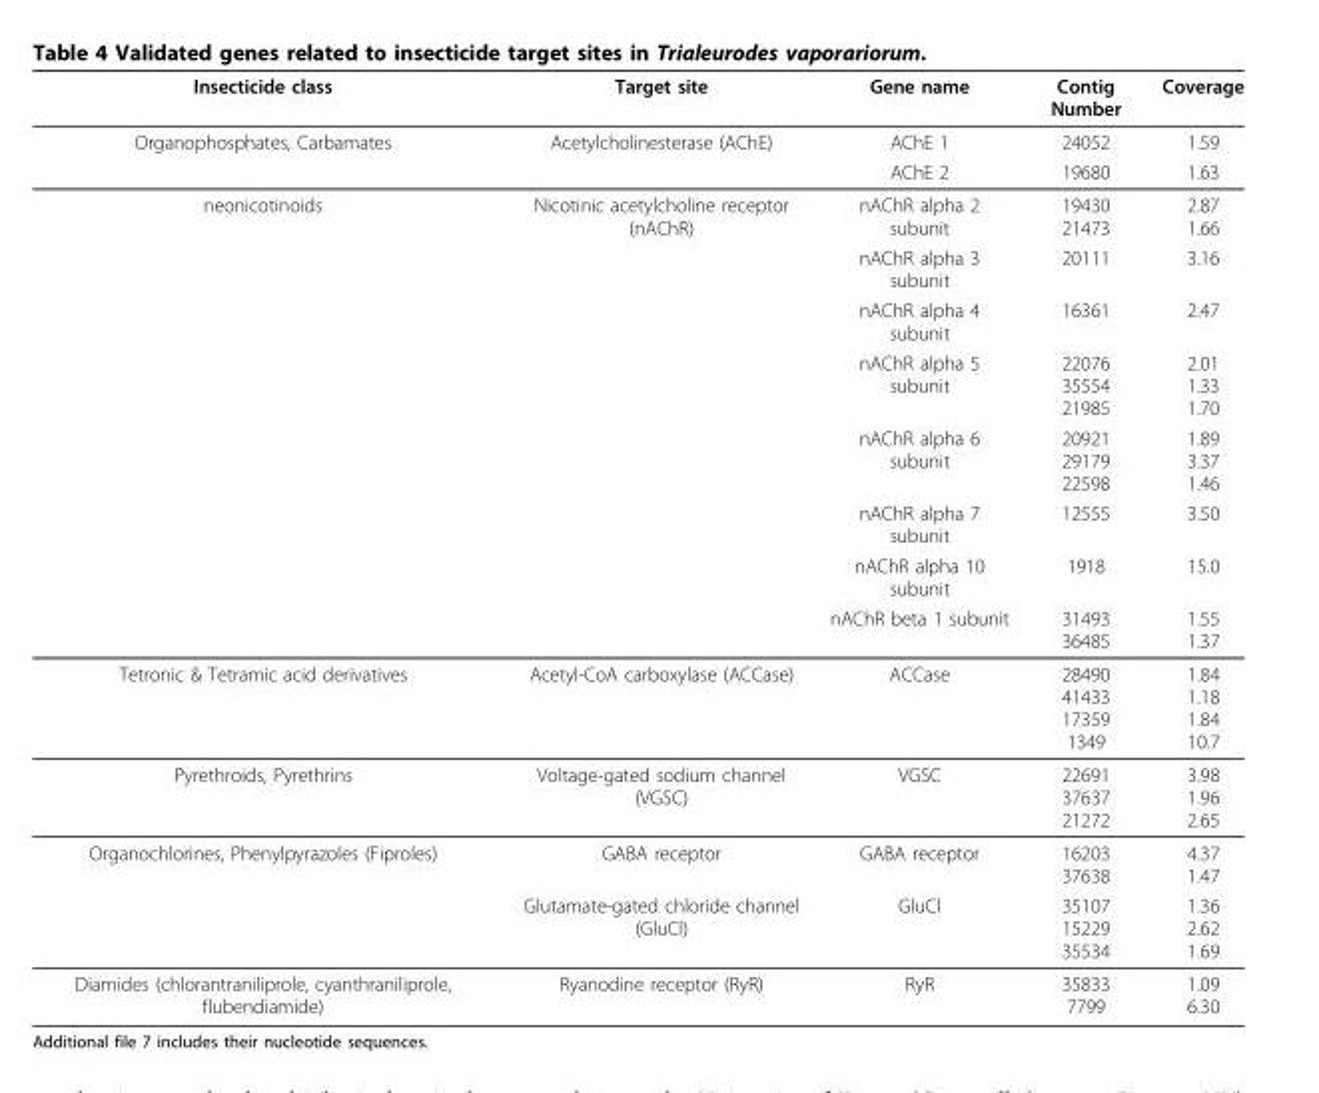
<table><thead><tr><td>Insecticide class</td><td>Target site</td><td>Gene name</td><td>Contig Number</td><td>Coverage</td></tr></thead><tbody><tr><td rowspan="2">Organophosphates, Carbamates</td><td>Acetylcholinesterase (AChE)</td><td>AChE 1</td><td>24052</td><td>1.59</td></tr><tr><td></td><td>AChE 2</td><td>19680</td><td>1.63</td></tr><tr><td rowspan="8">neonicotinoids</td><td>Nicotinic acetylcholine receptor (nAChR)</td><td>nAChR alpha 2 subunit</td><td>19430 21473</td><td>2.87 1.66</td></tr><tr><td></td><td>nAChR alpha 3 subunit</td><td>20111</td><td>3.16</td></tr><tr><td></td><td>nAChR alpha 4 subunit</td><td>16361</td><td>2.47</td></tr><tr><td></td><td>nAChR alpha 5 subunit</td><td>22076 35554 21985</td><td>2.01 1.33 1.70</td></tr><tr><td></td><td>nAChR alpha 6 subunit</td><td>20921 29179 22598</td><td>1.89 3.37 1.46</td></tr><tr><td></td><td>nAChR alpha 7 subunit</td><td>12555</td><td>3.50</td></tr><tr><td></td><td>nAChR alpha 10 subunit</td><td>1918</td><td>15.0</td></tr><tr><td></td><td>nAChR beta 1 subunit</td><td>31493 36485</td><td>1.55 1.37</td></tr><tr><td>Tetronic &amp; Tetramic acid derivatives</td><td>Acetyl-CoA carboxylase (ACCase)</td><td>ACCase</td><td>28490 41433 17359 1349</td><td>1.84 1.18 1.84 10.7</td></tr><tr><td>Pyrethroids, Pyrethrins</td><td>Voltage-gated sodium channel (VGSC)</td><td>VGSC</td><td>22691 37637 21272</td><td>3.98 1.96 2.65</td></tr><tr><td rowspan="2">Organochlorines, Phenylpyrazoles (Fiproles)</td><td>GABA receptor</td><td>GABA receptor</td><td>16203 37638</td><td>4.37 1.47</td></tr><tr><td>Glutamate-gated chloride channel (GluCl)</td><td>GluCl</td><td>35107 15229 35534</td><td>1.36 2.62 1.69</td></tr><tr><td>Diamides (chlorantraniliprole, cyanthraniliprole, flubendiamide)</td><td>Ryanodine receptor (RyR)</td><td>RyR</td><td>35833 7799</td><td>1.09 6.30</td></tr></tbody></table>